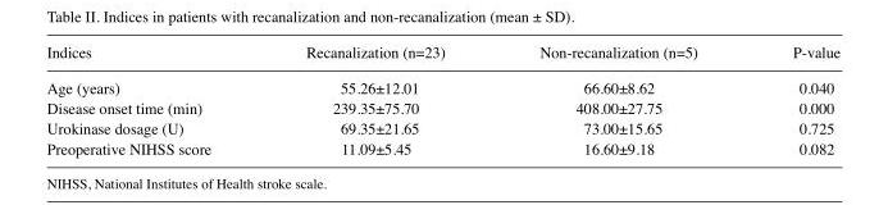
<table><thead><tr><td>Indices</td><td>Recanalization (n=23)</td><td>Non-recanalization (n=5)</td><td>P-value</td></tr></thead><tbody><tr><td>Age (years)</td><td>55.26±12.01</td><td>66.60±8.62</td><td>0.040</td></tr><tr><td>Disease onset time (min)</td><td>239.35±75.70</td><td>408.00±27.75</td><td>0.000</td></tr><tr><td>Urokinase dosage (U)</td><td>69.35±21.65</td><td>73.00±15.65</td><td>0.725</td></tr><tr><td>Preoperative NIHSS score</td><td>11.09±5.45</td><td>16.60±9.18</td><td>0.082</td></tr></tbody></table>